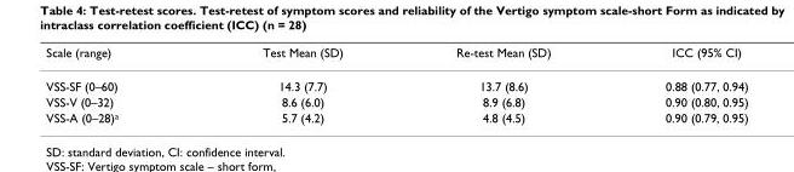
<table><thead><tr><td>Scale (range)</td><td>Test Mean (SD)</td><td>Re-test Mean (SD)</td><td>ICC (95% CI)</td></tr></thead><tbody><tr><td>VSS-SF (0–60)</td><td>14.3 (7.7)</td><td>13.7 (8.6)</td><td>0.88 (0.77, 0.94)</td></tr><tr><td>VSS-V (0–32)</td><td>8.6 (6.0)</td><td>8.9 (6.8)</td><td>0.90 (0.80, 0.95)</td></tr><tr><td>VSS-A (0–28)<sup>a</sup></td><td>5.7 (4.2)</td><td>4.8 (4.5)</td><td>0.90 (0.79, 0.95)</td></tr></tbody></table>